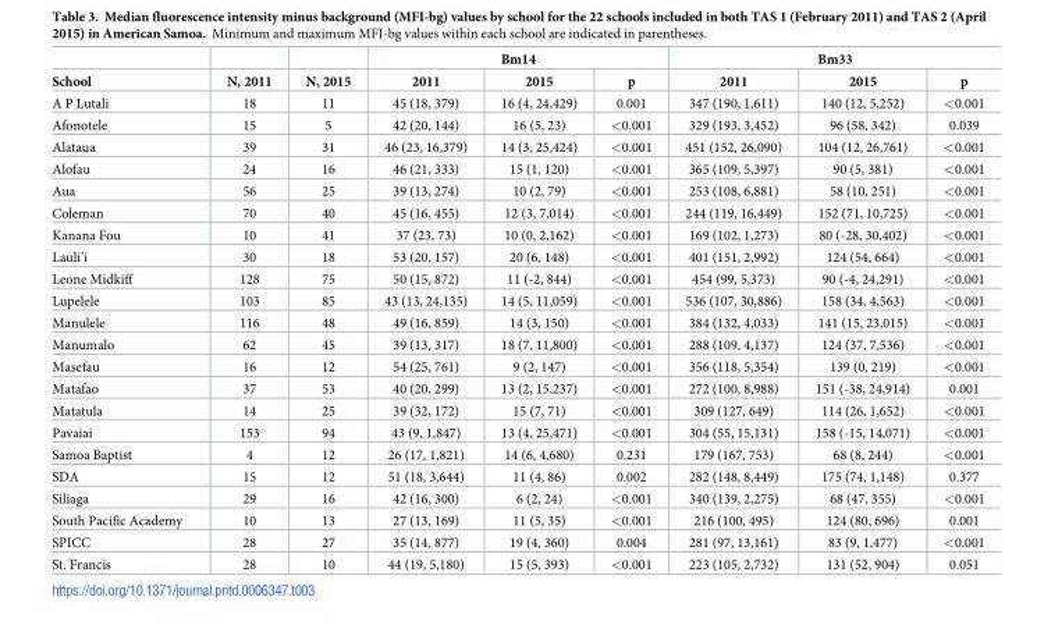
<table><thead><tr><td rowspan="2">School</td><td rowspan="2">N, 2011</td><td rowspan="2">N, 2015</td><td colspan="3">Bm14</td><td colspan="3">Bm33</td></tr><tr><td>2011</td><td>2015</td><td>p</td><td>2011</td><td>2015</td><td>p</td></tr></thead><tbody><tr><td>A P Lutali</td><td>18</td><td>11</td><td>45 (18, 379)</td><td>16 (4, 24,429)</td><td>0.001</td><td>347 (190, 1,611)</td><td>140 (12, 5,252)</td><td>&lt;0.001</td></tr><tr><td>Afonotele</td><td>15</td><td>5</td><td>42 (20, 144)</td><td>16 (5, 23)</td><td>&lt;0.001</td><td>329 (193, 3,452)</td><td>96 (58, 342)</td><td>0.039</td></tr><tr><td>Alataua</td><td>39</td><td>31</td><td>46 (23, 16,379)</td><td>14 (3, 25,424)</td><td>&lt;0.001</td><td>451 (152, 26,090)</td><td>104 (12, 26,761)</td><td>&lt;0.001</td></tr><tr><td>Alofau</td><td>24</td><td>16</td><td>46 (21, 333)</td><td>15 (1, 120)</td><td>&lt;0.001</td><td>365 (109, 5,397)</td><td>90 (5, 381)</td><td>&lt;0.001</td></tr><tr><td>Aua</td><td>56</td><td>25</td><td>39 (13, 274)</td><td>10 (2, 79)</td><td>&lt;0.001</td><td>253 (108, 6,881)</td><td>58 (10, 251)</td><td>&lt;0.001</td></tr><tr><td>Coleman</td><td>70</td><td>40</td><td>45 (16, 455)</td><td>12 (3, 7,014)</td><td>&lt;0.001</td><td>244 (119, 16,449)</td><td>152 (71, 10,725)</td><td>&lt;0.001</td></tr><tr><td>Kanana Fou</td><td>10</td><td>41</td><td>37 (23, 73)</td><td>10 (0, 2,162)</td><td>&lt;0.001</td><td>169 (102, 1,273)</td><td>80 (-28, 30,402)</td><td>&lt;0.001</td></tr><tr><td>Lauli’i</td><td>30</td><td>18</td><td>53 (20, 157)</td><td>20 (6, 148)</td><td>&lt;0.001</td><td>401 (151, 2,992)</td><td>124 (54, 664)</td><td>&lt;0.001</td></tr><tr><td>Leone Midkiff</td><td>128</td><td>75</td><td>50 (15, 872)</td><td>11 (-2, 844)</td><td>&lt;0.001</td><td>454 (99, 5,373)</td><td>90 (-4, 24,291)</td><td>&lt;0.001</td></tr><tr><td>Lupelele</td><td>103</td><td>85</td><td>43 (13, 24,135)</td><td>14 (5, 11,059)</td><td>&lt;0.001</td><td>536 (107, 30,886)</td><td>158 (34, 4,563)</td><td>&lt;0.001</td></tr><tr><td>Manulele</td><td>116</td><td>48</td><td>49 (16, 859)</td><td>14 (3, 150)</td><td>&lt;0.001</td><td>384 (132, 4,033)</td><td>141 (15, 23,015)</td><td>&lt;0.001</td></tr><tr><td>Manumalo</td><td>62</td><td>45</td><td>39 (13, 317)</td><td>18 (7, 11,800)</td><td>&lt;0.001</td><td>288 (109, 4,137)</td><td>124 (37, 7,536)</td><td>&lt;0.001</td></tr><tr><td>Masefau</td><td>16</td><td>12</td><td>54 (25, 761)</td><td>9 (2, 147)</td><td>&lt;0.001</td><td>356 (118, 5,354)</td><td>139 (0, 219)</td><td>&lt;0.001</td></tr><tr><td>Matafao</td><td>37</td><td>53</td><td>40 (20, 299)</td><td>13 (2, 15,237)</td><td>&lt;0.001</td><td>272 (100, 8,988)</td><td>151 (-38, 24,914)</td><td>0.001</td></tr><tr><td>Matatula</td><td>14</td><td>25</td><td>39 (32, 172)</td><td>15 (7, 71)</td><td>&lt;0.001</td><td>309 (127, 649)</td><td>114 (26, 1,652)</td><td>&lt;0.001</td></tr><tr><td>Pavaiai</td><td>153</td><td>94</td><td>43 (9, 1,847)</td><td>13 (4, 25,471)</td><td>&lt;0.001</td><td>304 (55, 15,131)</td><td>158 (-15, 14,071)</td><td>&lt;0.001</td></tr><tr><td>Samoa Baptist</td><td>4</td><td>12</td><td>26 (17, 1,821)</td><td>14 (6, 4,680)</td><td>0.231</td><td>179 (167, 753)</td><td>68 (8, 244)</td><td>&lt;0.001</td></tr><tr><td>SDA</td><td>15</td><td>12</td><td>51 (18, 3,644)</td><td>11 (4, 86)</td><td>0.002</td><td>282 (148, 8,449)</td><td>175 (74, 1,148)</td><td>0.377</td></tr><tr><td>Siliaga</td><td>29</td><td>16</td><td>42 (16, 300)</td><td>6 (2, 24)</td><td>&lt;0.001</td><td>340 (139, 2,275)</td><td>68 (47, 355)</td><td>&lt;0.001</td></tr><tr><td>South Pacific Academy</td><td>10</td><td>13</td><td>27 (13, 169)</td><td>11 (5, 35)</td><td>&lt;0.001</td><td>216 (100, 495)</td><td>124 (80, 696)</td><td>0.001</td></tr><tr><td>SPICC</td><td>28</td><td>27</td><td>35 (14, 877)</td><td>19 (4, 360)</td><td>0.004</td><td>281 (97, 13,161)</td><td>83 (9, 1,477)</td><td>&lt;0.001</td></tr><tr><td>St. Francis</td><td>28</td><td>10</td><td>44 (19, 5,180)</td><td>15 (5, 393)</td><td>&lt;0.001</td><td>223 (105, 2,732)</td><td>131 (52, 904)</td><td>0.051</td></tr></tbody></table>